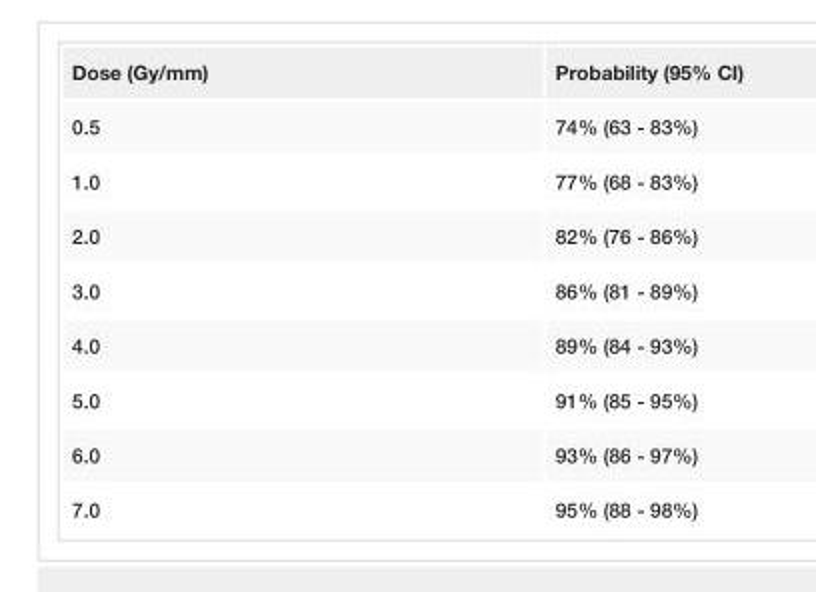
<table><tbody><tr><td>Dose (Gy/mm)</td><td>Probability (95% CI)</td></tr><tr><td>0.5</td><td>74% (63 - 83%)</td></tr><tr><td>1.0</td><td>77% (68 - 83%)</td></tr><tr><td>2.0</td><td>82% (76 - 86%)</td></tr><tr><td>3.0</td><td>86% (81 - 89%)</td></tr><tr><td>4.0</td><td>89% (84 - 93%)</td></tr><tr><td>5.0</td><td>91% (85 - 95%)</td></tr><tr><td>6.0</td><td>93% (86 - 97%)</td></tr><tr><td>7.0</td><td>95% (88 - 98%)</td></tr></tbody></table>